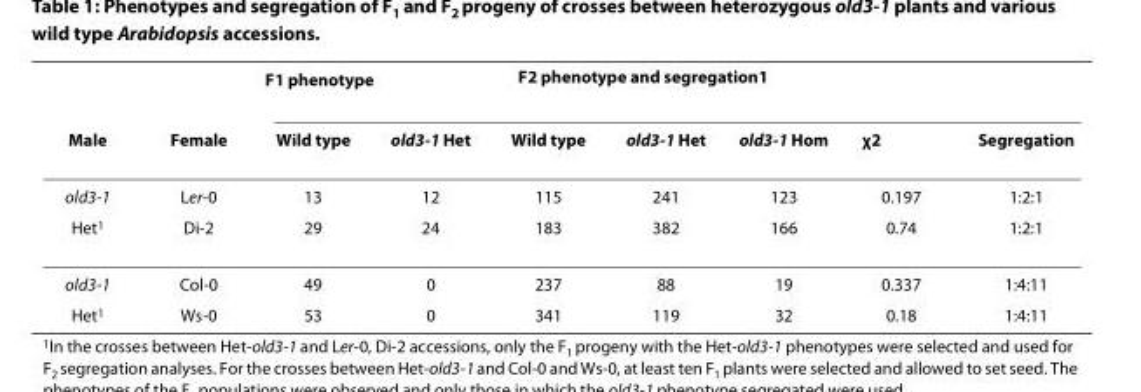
<table><thead><tr><td rowspan="2">Male</td><td rowspan="2">Female</td><td colspan="2">F<sub>1</sub> phenotype</td><td colspan="5">F<sub>2</sub> phenotype and segregation<sup>1</sup></td></tr><tr><td>Wild type</td><td>old3-1 Het</td><td>Wild type</td><td>old3-1 Het</td><td>old3-1 Hom</td><td>χ<sup>2</sup></td><td>Segregation</td></tr></thead><tbody><tr><td>old3-1</td><td>Ler-0</td><td>13</td><td>12</td><td>115</td><td>241</td><td>123</td><td>0.197</td><td>1:2:1</td></tr><tr><td>Het<sup>1</sup></td><td>Di-2</td><td>29</td><td>24</td><td>183</td><td>382</td><td>166</td><td>0.74</td><td>1:2:1</td></tr><tr><td>old3-1</td><td>Col-0</td><td>49</td><td>0</td><td>237</td><td>88</td><td>19</td><td>0.337</td><td>1:4:11</td></tr><tr><td>Het<sup>1</sup></td><td>Ws-0</td><td>53</td><td>0</td><td>341</td><td>119</td><td>32</td><td>0.18</td><td>1:4:11</td></tr></tbody></table>